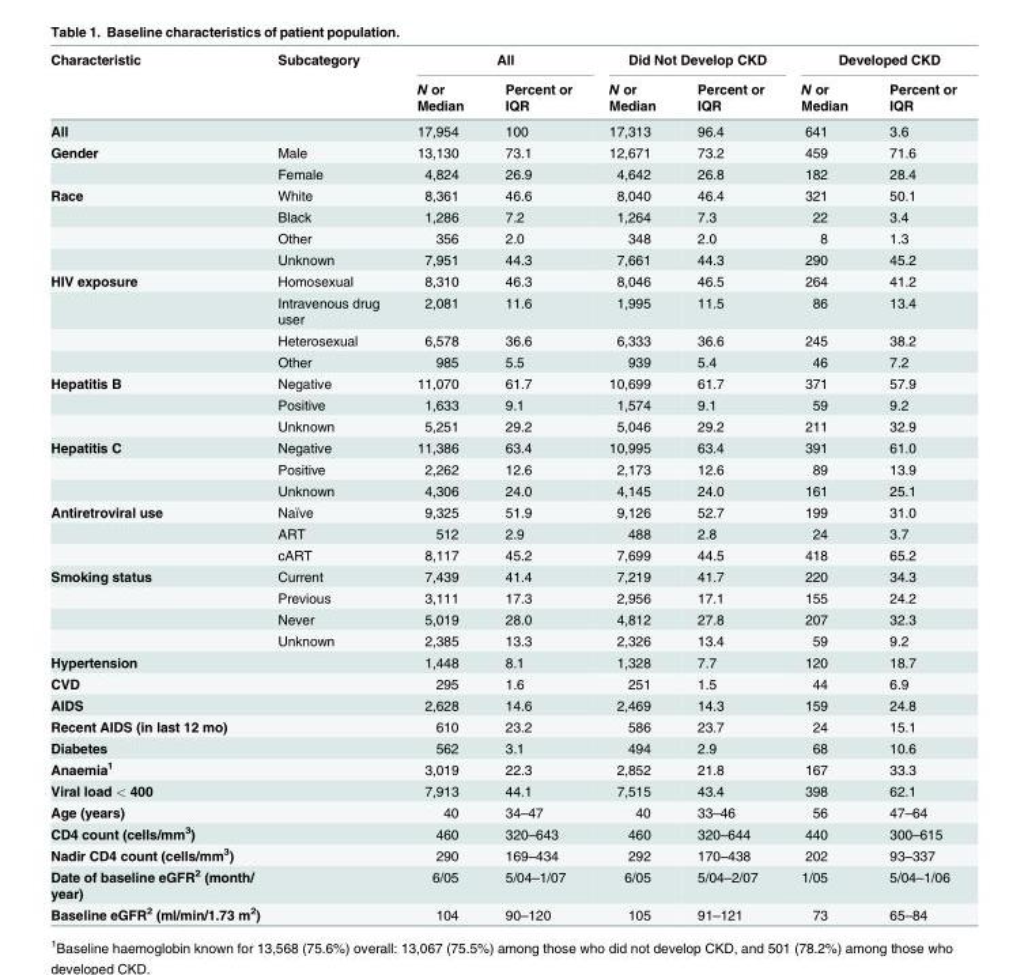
<table><thead><tr><td rowspan="2">Characteristic</td><td rowspan="2">Subcategory</td><td colspan="2">All</td><td colspan="2">Did Not Develop CKD</td><td colspan="2">Developed CKD</td></tr><tr><td>N or Median</td><td>Percent or IQR</td><td>N or Median</td><td>Percent or IQR</td><td>N or Median</td><td>Percent or IQR</td></tr></thead><tbody><tr><td>All</td><td></td><td>17,954</td><td>100</td><td>17,313</td><td>96.4</td><td>641</td><td>3.6</td></tr><tr><td rowspan="2">Gender</td><td>Male</td><td>13,130</td><td>73.1</td><td>12,671</td><td>73.2</td><td>459</td><td>71.6</td></tr><tr><td>Female</td><td>4,824</td><td>26.9</td><td>4,642</td><td>26.8</td><td>182</td><td>28.4</td></tr><tr><td rowspan="4">Race</td><td>White</td><td>8,361</td><td>46.6</td><td>8,040</td><td>46.4</td><td>321</td><td>50.1</td></tr><tr><td>Black</td><td>1,286</td><td>7.2</td><td>1,264</td><td>7.3</td><td>22</td><td>3.4</td></tr><tr><td>Other</td><td>356</td><td>2.0</td><td>348</td><td>2.0</td><td>8</td><td>1.3</td></tr><tr><td>Unknown</td><td>7,951</td><td>44.3</td><td>7,661</td><td>44.3</td><td>290</td><td>45.2</td></tr><tr><td rowspan="4">HIV exposure</td><td>Homosexual</td><td>8,310</td><td>46.3</td><td>8,046</td><td>46.5</td><td>264</td><td>41.2</td></tr><tr><td>Intravenous drug user</td><td>2,081</td><td>11.6</td><td>1,995</td><td>11.5</td><td>86</td><td>13.4</td></tr><tr><td>Heterosexual</td><td>6,578</td><td>36.6</td><td>6,333</td><td>36.6</td><td>245</td><td>38.2</td></tr><tr><td>Other</td><td>985</td><td>5.5</td><td>939</td><td>5.4</td><td>46</td><td>7.2</td></tr><tr><td rowspan="3">Hepatitis B</td><td>Negative</td><td>11,070</td><td>61.7</td><td>10,699</td><td>61.7</td><td>371</td><td>57.9</td></tr><tr><td>Positive</td><td>1,633</td><td>9.1</td><td>1,574</td><td>9.1</td><td>59</td><td>9.2</td></tr><tr><td>Unknown</td><td>5,251</td><td>29.2</td><td>5,046</td><td>29.2</td><td>211</td><td>32.9</td></tr><tr><td rowspan="3">Hepatitis C</td><td>Negative</td><td>11,386</td><td>63.4</td><td>10,995</td><td>63.4</td><td>391</td><td>61.0</td></tr><tr><td>Positive</td><td>2,262</td><td>12.6</td><td>2,173</td><td>12.6</td><td>89</td><td>13.9</td></tr><tr><td>Unknown</td><td>4,306</td><td>24.0</td><td>4,145</td><td>24.0</td><td>161</td><td>25.1</td></tr><tr><td rowspan="3">Antiretroviral use</td><td>Naïve</td><td>9,325</td><td>51.9</td><td>9,126</td><td>52.7</td><td>199</td><td>31.0</td></tr><tr><td>ART</td><td>512</td><td>2.9</td><td>488</td><td>2.8</td><td>24</td><td>3.7</td></tr><tr><td>cART</td><td>8,117</td><td>45.2</td><td>7,699</td><td>44.5</td><td>418</td><td>65.2</td></tr><tr><td rowspan="4">Smoking status</td><td>Current</td><td>7,439</td><td>41.4</td><td>7,219</td><td>41.7</td><td>220</td><td>34.3</td></tr><tr><td>Previous</td><td>3,111</td><td>17.3</td><td>2,956</td><td>17.1</td><td>155</td><td>24.2</td></tr><tr><td>Never</td><td>5,019</td><td>28.0</td><td>4,812</td><td>27.8</td><td>207</td><td>32.3</td></tr><tr><td>Unknown</td><td>2,385</td><td>13.3</td><td>2,326</td><td>13.4</td><td>59</td><td>9.2</td></tr><tr><td>Hypertension</td><td></td><td>1,448</td><td>8.1</td><td>1,328</td><td>7.7</td><td>120</td><td>18.7</td></tr><tr><td>CVD</td><td></td><td>295</td><td>1.6</td><td>251</td><td>1.5</td><td>44</td><td>6.9</td></tr><tr><td>AIDS</td><td></td><td>2,628</td><td>14.6</td><td>2,469</td><td>14.3</td><td>159</td><td>24.8</td></tr><tr><td>Recent AIDS (in last 12 mo)</td><td></td><td>610</td><td>23.2</td><td>586</td><td>23.7</td><td>24</td><td>15.1</td></tr><tr><td>Diabetes</td><td></td><td>562</td><td>3.1</td><td>494</td><td>2.9</td><td>68</td><td>10.6</td></tr><tr><td>Anaemia<sup>1</sup></td><td></td><td>3,019</td><td>22.3</td><td>2,852</td><td>21.8</td><td>167</td><td>33.3</td></tr><tr><td>Viral load &lt; 400</td><td></td><td>7,913</td><td>44.1</td><td>7,515</td><td>43.4</td><td>398</td><td>62.1</td></tr><tr><td>Age (years)</td><td></td><td>40</td><td>34–47</td><td>40</td><td>33–46</td><td>56</td><td>47–64</td></tr><tr><td>CD4 count (cells/mm<sup>3</sup>)</td><td></td><td>460</td><td>320–643</td><td>460</td><td>320–644</td><td>440</td><td>300–615</td></tr><tr><td>Nadir CD4 count (cells/mm<sup>3</sup>)</td><td></td><td>290</td><td>169–434</td><td>292</td><td>170–438</td><td>202</td><td>93–337</td></tr><tr><td>Date of baseline eGFR<sup>2</sup> (month/ year)</td><td></td><td>6/05</td><td>5/04–1/07</td><td>6/05</td><td>5/04–2/07</td><td>1/05</td><td>5/04–1/06</td></tr><tr><td>Baseline eGFR<sup>2</sup> (ml/min/1.73 m<sup>2</sup>)</td><td></td><td>104</td><td>90–120</td><td>105</td><td>91–121</td><td>73</td><td>65–84</td></tr></tbody></table>